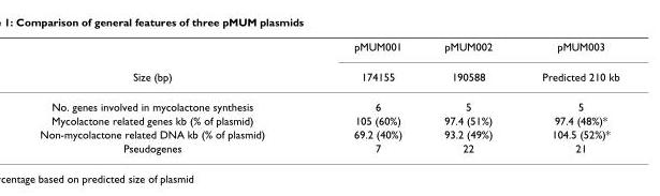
<table><thead><tr><td rowspan="2">Size (bp)</td><td rowspan="2">pMUM001 174155</td><td rowspan="2">pMUM002 190588</td><td rowspan="2">pMUM003 Predicted 210 kb</td></tr><tr></tr></thead><tbody><tr><td>No. genes involved in mycolactone synthesis</td><td>6</td><td>5</td><td>5</td></tr><tr><td>Mycolactone related genes kb (% of plasmid)</td><td>105 (60%)</td><td>97.4 (51%)</td><td>97.4 (48%)*</td></tr><tr><td>Non-mycolactone related DNA kb (% of plasmid)</td><td>69.2 (40%)</td><td>93.2 (49%)</td><td>104.5 (52%)*</td></tr><tr><td>Pseudogenes</td><td>7</td><td>22</td><td>21</td></tr></tbody></table>